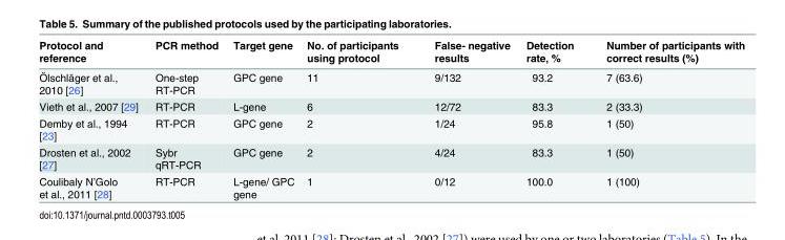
<table><thead><tr><td>Protocol and reference</td><td>PCR method</td><td>Target gene</td><td>No. of participants using protocol</td><td>False- negative results</td><td>Detection rate, %</td><td>Number of participants with correct results (%)</td></tr></thead><tbody><tr><td>Ölschläger et al., 2010 [26]</td><td>One-step RT-PCR</td><td>GPC gene</td><td>11</td><td>9/132</td><td>93.2</td><td>7 (63.6)</td></tr><tr><td>Vieth et al., 2007 [29]</td><td>RT-PCR</td><td>L-gene</td><td>6</td><td>12/72</td><td>83.3</td><td>2 (33.3)</td></tr><tr><td>Demby et al., 1994 [23]</td><td>RT-PCR</td><td>GPC gene</td><td>2</td><td>1/24</td><td>95.8</td><td>1 (50)</td></tr><tr><td>Drosten et al., 2002 [27]</td><td>Sybr qRT-PCR</td><td>GPC gene</td><td>2</td><td>4/24</td><td>83.3</td><td>1 (50)</td></tr><tr><td>Coulibaly N’Golo et al., 2011 [28]</td><td>RT-PCR</td><td>L-gene/ GPC gene</td><td>1</td><td>0/12</td><td>100.0</td><td>1 (100)</td></tr></tbody></table>